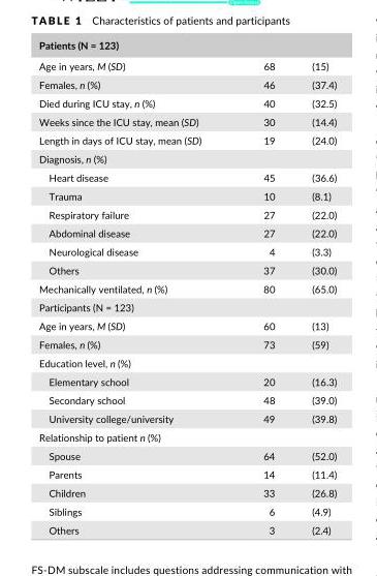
<table><thead><tr><td>Patients (N = 123)</td><td></td><td></td></tr></thead><tbody><tr><td>Age in years, M (SD)</td><td>68</td><td>(15)</td></tr><tr><td>Females, n (%)</td><td>46</td><td>(37.4)</td></tr><tr><td>Died during ICU stay, n (%)</td><td>40</td><td>(32.5)</td></tr><tr><td>Weeks since the ICU stay, mean (SD)</td><td>30</td><td>(14.4)</td></tr><tr><td>Length in days of ICU stay, mean (SD)</td><td>19</td><td>(24.0)</td></tr><tr><td colspan="3">Diagnosis, n (%)</td></tr><tr><td>Heart disease</td><td>45</td><td>(36.6)</td></tr><tr><td>Trauma</td><td>10</td><td>(8.1)</td></tr><tr><td>Respiratory failure</td><td>27</td><td>(22.0)</td></tr><tr><td>Abdominal disease</td><td>27</td><td>(22.0)</td></tr><tr><td>Neurological disease</td><td>4</td><td>(3.3)</td></tr><tr><td>Others</td><td>37</td><td>(30.0)</td></tr><tr><td>Mechanically ventilated, n (%)</td><td>80</td><td>(65.0)</td></tr><tr><td colspan="3">Participants (N = 123)</td></tr><tr><td>Age in years, M (SD)</td><td>60</td><td>(13)</td></tr><tr><td>Females, n (%)</td><td>73</td><td>(59)</td></tr><tr><td colspan="3">Education level, n (%)</td></tr><tr><td>Elementary school</td><td>20</td><td>(16.3)</td></tr><tr><td>Secondary school</td><td>48</td><td>(39.0)</td></tr><tr><td>University college/university</td><td>49</td><td>(39.8)</td></tr><tr><td colspan="3">Relationship to patient n (%)</td></tr><tr><td>Spouse</td><td>64</td><td>(52.0)</td></tr><tr><td>Parents</td><td>14</td><td>(11.4)</td></tr><tr><td>Children</td><td>33</td><td>(26.8)</td></tr><tr><td>Siblings</td><td>6</td><td>(4.9)</td></tr><tr><td>Others</td><td>3</td><td>(2.4)</td></tr></tbody></table>